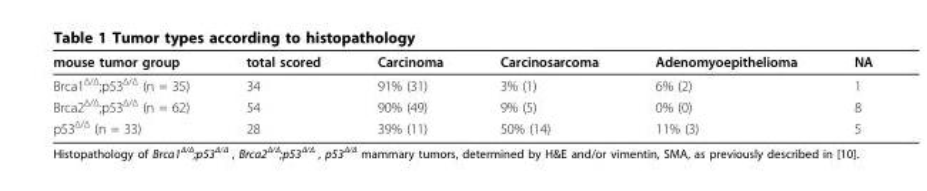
<table><thead><tr><td>mouse tumor group</td><td>total scored</td><td>Carcinoma</td><td>Carcinosarcoma</td><td>Adenomyoepithelioma</td><td>NA</td></tr></thead><tbody><tr><td>Brca1<sup>Δ/Δ</sup>;p53<sup>Δ/Δ</sup> (n = 35)</td><td>34</td><td>91% (31)</td><td>3% (1)</td><td>6% (2)</td><td>1</td></tr><tr><td>Brca2<sup>Δ/Δ</sup>;p53<sup>Δ/Δ</sup> (n = 62)</td><td>54</td><td>90% (49)</td><td>9% (5)</td><td>0% (0)</td><td>8</td></tr><tr><td>p53<sup>Δ/Δ</sup> (n = 33)</td><td>28</td><td>39% (11)</td><td>50% (14)</td><td>11% (3)</td><td>5</td></tr></tbody></table>